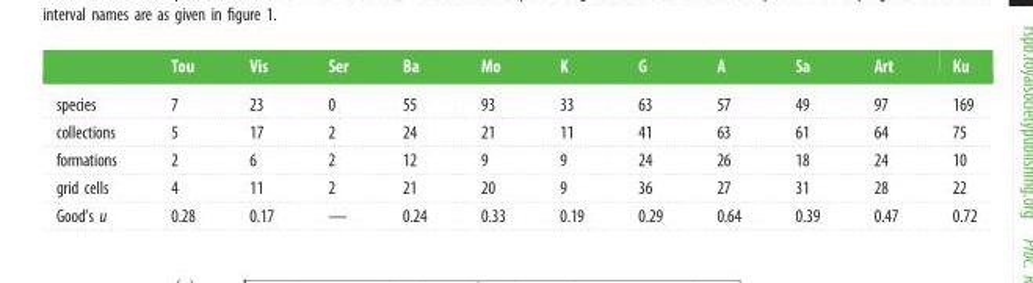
<table><thead><tr><td></td><td>Tou</td><td>Vis</td><td>Ser</td><td>Ba</td><td>Mo</td><td>K</td><td>G</td><td>A</td><td>Sa</td><td>Art</td><td>Ku</td></tr></thead><tbody><tr><td>species</td><td>7</td><td>23</td><td>0</td><td>55</td><td>93</td><td>33</td><td>63</td><td>57</td><td>49</td><td>97</td><td>169</td></tr><tr><td>collections</td><td>5</td><td>17</td><td>2</td><td>24</td><td>21</td><td>11</td><td>41</td><td>63</td><td>61</td><td>64</td><td>75</td></tr><tr><td>formations</td><td>2</td><td>6</td><td>2</td><td>12</td><td>9</td><td>9</td><td>24</td><td>26</td><td>18</td><td>24</td><td>10</td></tr><tr><td>grid cells</td><td>4</td><td>11</td><td>2</td><td>21</td><td>20</td><td>9</td><td>36</td><td>27</td><td>31</td><td>28</td><td>22</td></tr><tr><td>Good’s u</td><td>0.28</td><td>0.17</td><td>—</td><td>0.24</td><td>0.33</td><td>0.19</td><td>0.29</td><td>0.64</td><td>0.39</td><td>0.47</td><td>0.72</td></tr></tbody></table>